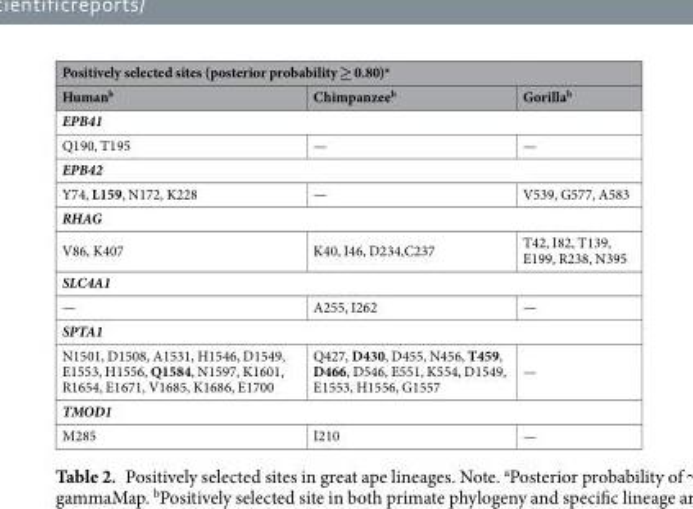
<table><thead><tr><td colspan="3">Positively selected sites (posterior probability ≥ 0.80)<sup>a</sup></td></tr><tr><td>Human<sup>b</sup></td><td>Chimpanzee<sup>b</sup></td><td>Gorilla<sup>b</sup></td></tr></thead><tbody><tr><td colspan="3">EPB41</td></tr><tr><td>Q190, T195</td><td>—</td><td>—</td></tr><tr><td colspan="3">EPB42</td></tr><tr><td>Y74, L159, N172, K228</td><td>—</td><td>V539, G577, A583</td></tr><tr><td colspan="3">RHAG</td></tr><tr><td>V86, K407</td><td>K40, I46, D234,C237</td><td>T42, I82, T139, E199, R238, N395</td></tr><tr><td colspan="3">SLC4A1</td></tr><tr><td>—</td><td>A255, I262</td><td>—</td></tr><tr><td colspan="3">SPTA1</td></tr><tr><td>N1501, D1508, A1531, H1546, D1549, E1553, H1556, Q1584, N1597, K1601, R1654, E1671, V1685, K1686, E1700</td><td>Q427, D430, D455, N456, T459, D466, D546, E551, K554, D1549, E1553, H1556, G1557</td><td>—</td></tr><tr><td colspan="3">TMOD1</td></tr><tr><td>M285</td><td>I210</td><td>—</td></tr></tbody></table>